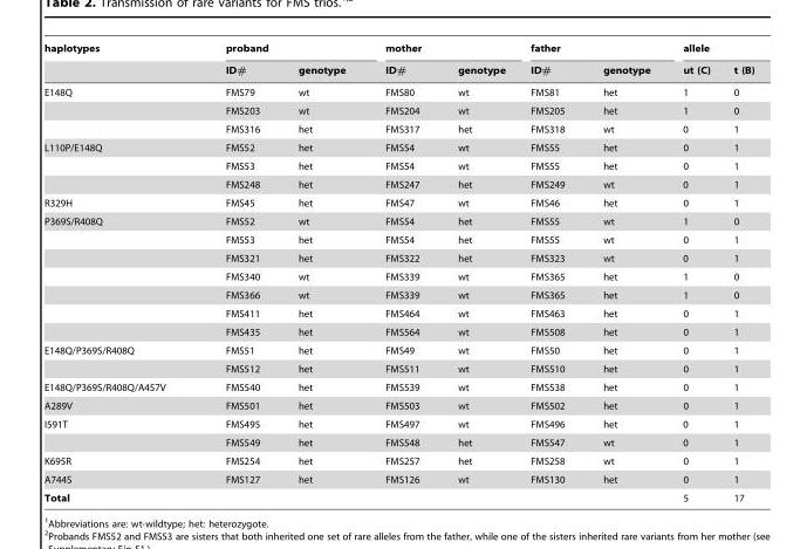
<table><thead><tr><td rowspan="2">haplotypes</td><td colspan="2">proband</td><td colspan="2">mother</td><td colspan="2">father</td><td colspan="2">allele</td></tr><tr><td>ID#</td><td>genotype</td><td>ID#</td><td>genotype</td><td>ID#</td><td>genotype</td><td>ut (C)</td><td>t (B)</td></tr></thead><tbody><tr><td rowspan="3">E148Q</td><td>FMS79</td><td>wt</td><td>FMS80</td><td>wt</td><td>FMS81</td><td>het</td><td>1</td><td>0</td></tr><tr><td>FMS203</td><td>wt</td><td>FMS204</td><td>wt</td><td>FMS205</td><td>het</td><td>1</td><td>0</td></tr><tr><td>FMS316</td><td>het</td><td>FMS317</td><td>het</td><td>FMS318</td><td>wt</td><td>0</td><td>1</td></tr><tr><td rowspan="3">L110P/E148Q</td><td>FMS52</td><td>het</td><td>FMS54</td><td>wt</td><td>FMS55</td><td>het</td><td>0</td><td>1</td></tr><tr><td>FMS53</td><td>het</td><td>FMS54</td><td>wt</td><td>FMS55</td><td>het</td><td>0</td><td>1</td></tr><tr><td>FMS248</td><td>het</td><td>FMS247</td><td>het</td><td>FMS249</td><td>wt</td><td>0</td><td>1</td></tr><tr><td>R329H</td><td>FMS45</td><td>het</td><td>FMS47</td><td>wt</td><td>FMS46</td><td>het</td><td>0</td><td>1</td></tr><tr><td rowspan="7">P369S/R408Q</td><td>FMS52</td><td>wt</td><td>FMS54</td><td>het</td><td>FMS55</td><td>wt</td><td>1</td><td>0</td></tr><tr><td>FMS53</td><td>het</td><td>FMS54</td><td>het</td><td>FMS55</td><td>wt</td><td>0</td><td>1</td></tr><tr><td>FMS321</td><td>het</td><td>FMS322</td><td>het</td><td>FMS323</td><td>wt</td><td>0</td><td>1</td></tr><tr><td>FMS340</td><td>wt</td><td>FMS339</td><td>wt</td><td>FMS365</td><td>het</td><td>1</td><td>0</td></tr><tr><td>FMS366</td><td>wt</td><td>FMS339</td><td>wt</td><td>FMS365</td><td>het</td><td>1</td><td>0</td></tr><tr><td>FMS411</td><td>het</td><td>FMS464</td><td>wt</td><td>FMS463</td><td>het</td><td>0</td><td>1</td></tr><tr><td>FMS435</td><td>het</td><td>FMS564</td><td>wt</td><td>FMS508</td><td>het</td><td>0</td><td>1</td></tr><tr><td rowspan="2">E148Q/P369S/R408Q</td><td>FMS51</td><td>het</td><td>FMS49</td><td>wt</td><td>FMS50</td><td>het</td><td>0</td><td>1</td></tr><tr><td>FMS512</td><td>het</td><td>FMS511</td><td>wt</td><td>FMS510</td><td>het</td><td>0</td><td>1</td></tr><tr><td>E148Q/P369S/R408Q/A457V</td><td>FMS540</td><td>het</td><td>FMS539</td><td>wt</td><td>FMS538</td><td>het</td><td>0</td><td>1</td></tr><tr><td>A289V</td><td>FMS501</td><td>het</td><td>FMS503</td><td>wt</td><td>FMS502</td><td>het</td><td>0</td><td>1</td></tr><tr><td rowspan="2">I591T</td><td>FMS495</td><td>het</td><td>FMS497</td><td>wt</td><td>FMS496</td><td>het</td><td>0</td><td>1</td></tr><tr><td>FMS549</td><td>het</td><td>FMS548</td><td>het</td><td>FMS547</td><td>wt</td><td>0</td><td>1</td></tr><tr><td>K695R</td><td>FMS254</td><td>het</td><td>FMS257</td><td>het</td><td>FMS258</td><td>wt</td><td>0</td><td>1</td></tr><tr><td>A744S</td><td>FMS127</td><td>het</td><td>FMS126</td><td>wt</td><td>FMS130</td><td>het</td><td>0</td><td>1</td></tr><tr><td>Total</td><td></td><td></td><td></td><td></td><td></td><td></td><td>5</td><td>17</td></tr></tbody></table>